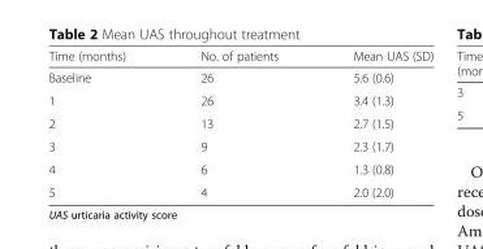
<table><thead><tr><td>Time (months)</td><td>No. of patients</td><td>Mean UAS (SD)</td></tr></thead><tbody><tr><td>Baseline</td><td>26</td><td>5.6 (0.6)</td></tr><tr><td>1</td><td>26</td><td>3.4 (1.3)</td></tr><tr><td>2</td><td>13</td><td>2.7 (1.5)</td></tr><tr><td>3</td><td>9</td><td>2.3 (1.7)</td></tr><tr><td>4</td><td>6</td><td>1.3 (0.8)</td></tr><tr><td>5</td><td>4</td><td>2.0 (2.0)</td></tr></tbody></table>